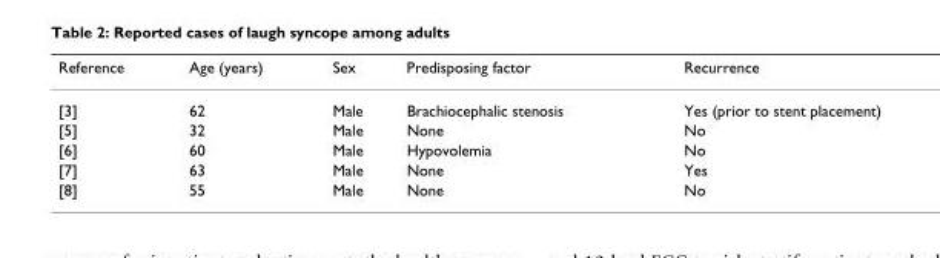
<table><thead><tr><td>Reference</td><td>Age (years)</td><td>Sex</td><td>Predisposing factor</td><td>Recurrence</td></tr></thead><tbody><tr><td>[3]</td><td>62</td><td>Male</td><td>Brachiocephalic stenosis</td><td>Yes (prior to stent placement)</td></tr><tr><td>[5]</td><td>32</td><td>Male</td><td>None</td><td>No</td></tr><tr><td>[6]</td><td>60</td><td>Male</td><td>Hypovolemia</td><td>No</td></tr><tr><td>[7]</td><td>63</td><td>Male</td><td>None</td><td>Yes</td></tr><tr><td>[8]</td><td>55</td><td>Male</td><td>None</td><td>No</td></tr></tbody></table>